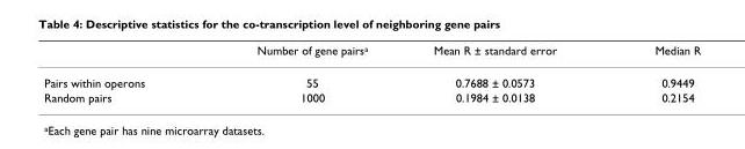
<table><thead><tr><td></td><td>Number of gene pairs<sup>a</sup></td><td>Mean R ± standard error</td><td>Median R</td></tr></thead><tbody><tr><td>Pairs within operons</td><td>55</td><td>0.7688 ± 0.0573</td><td>0.9449</td></tr><tr><td>Random pairs</td><td>1000</td><td>0.1984 ± 0.0138</td><td>0.2154</td></tr></tbody></table>